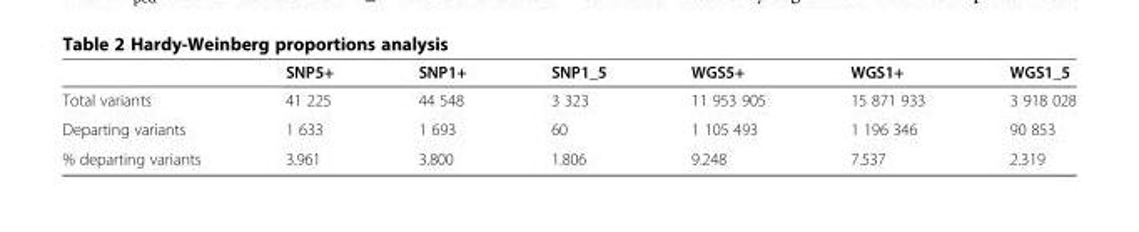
<table><thead><tr><td></td><td>SNP5+</td><td>SNP1+</td><td>SNP1_5</td><td>WGS5+</td><td>WGS1+</td><td>WGS1_5</td></tr></thead><tbody><tr><td>Total variants</td><td>41 225</td><td>44 548</td><td>3 323</td><td>11 953 905</td><td>15 871 933</td><td>3 918 028</td></tr><tr><td>Departing variants</td><td>1 633</td><td>1 693</td><td>60</td><td>1 105 493</td><td>1 196 346</td><td>90 853</td></tr><tr><td>% departing variants</td><td>3.961</td><td>3.800</td><td>1.806</td><td>9.248</td><td>7.537</td><td>2.319</td></tr></tbody></table>